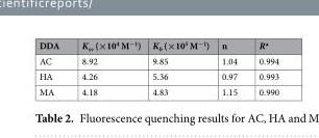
<table><thead><tr><td>DDA</td><td>K<sub>sv</sub> (×10<sup>4</sup> M<sup>−1</sup>)</td><td>K<sub>b</sub> (×10<sup>5</sup> M<sup>−1</sup>)</td><td>n</td><td>R<sup>a</sup></td></tr></thead><tbody><tr><td>AC</td><td>8.92</td><td>9.85</td><td>1.04</td><td>0.994</td></tr><tr><td>HA</td><td>4.26</td><td>5.36</td><td>0.97</td><td>0.993</td></tr><tr><td>MA</td><td>4.18</td><td>4.83</td><td>1.15</td><td>0.990</td></tr></tbody></table>